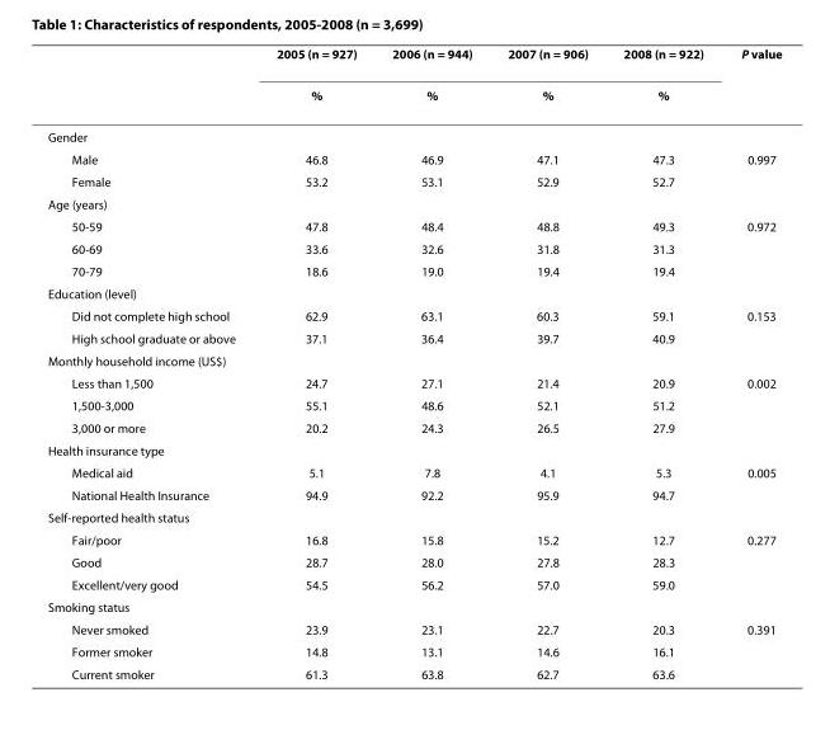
<table><thead><tr><td rowspan="2"></td><td rowspan="2">2005 (n = 927) %</td><td rowspan="2">2006 (n = 944) %</td><td rowspan="2">2007 (n = 906) %</td><td rowspan="2">2008 (n = 922) %</td><td rowspan="2">P value</td></tr><tr></tr></thead><tbody><tr><td colspan="6">Gender</td></tr><tr><td>Male</td><td>46.8</td><td>46.9</td><td>47.1</td><td>47.3</td><td>0.997</td></tr><tr><td>Female</td><td>53.2</td><td>53.1</td><td>52.9</td><td>52.7</td><td></td></tr><tr><td colspan="6">Age (years)</td></tr><tr><td>50-59</td><td>47.8</td><td>48.4</td><td>48.8</td><td>49.3</td><td>0.972</td></tr><tr><td>60-69</td><td>33.6</td><td>32.6</td><td>31.8</td><td>31.3</td><td></td></tr><tr><td>70-79</td><td>18.6</td><td>19.0</td><td>19.4</td><td>19.4</td><td></td></tr><tr><td colspan="6">Education (level)</td></tr><tr><td>Did not complete high school</td><td>62.9</td><td>63.1</td><td>60.3</td><td>59.1</td><td>0.153</td></tr><tr><td>High school graduate or above</td><td>37.1</td><td>36.4</td><td>39.7</td><td>40.9</td><td></td></tr><tr><td colspan="6">Monthly household income (US$)</td></tr><tr><td>Less than 1,500</td><td>24.7</td><td>27.1</td><td>21.4</td><td>20.9</td><td>0.002</td></tr><tr><td>1,500-3,000</td><td>55.1</td><td>48.6</td><td>52.1</td><td>51.2</td><td></td></tr><tr><td>3,000 or more</td><td>20.2</td><td>24.3</td><td>26.5</td><td>27.9</td><td></td></tr><tr><td colspan="6">Health insurance type</td></tr><tr><td>Medical aid</td><td>5.1</td><td>7.8</td><td>4.1</td><td>5.3</td><td>0.005</td></tr><tr><td>National Health Insurance</td><td>94.9</td><td>92.2</td><td>95.9</td><td>94.7</td><td></td></tr><tr><td colspan="6">Self-reported health status</td></tr><tr><td>Fair/poor</td><td>16.8</td><td>15.8</td><td>15.2</td><td>12.7</td><td>0.277</td></tr><tr><td>Good</td><td>28.7</td><td>28.0</td><td>27.8</td><td>28.3</td><td></td></tr><tr><td>Excellent/very good</td><td>54.5</td><td>56.2</td><td>57.0</td><td>59.0</td><td></td></tr><tr><td colspan="6">Smoking status</td></tr><tr><td>Never smoked</td><td>23.9</td><td>23.1</td><td>22.7</td><td>20.3</td><td>0.391</td></tr><tr><td>Former smoker</td><td>14.8</td><td>13.1</td><td>14.6</td><td>16.1</td><td></td></tr><tr><td>Current smoker</td><td>61.3</td><td>63.8</td><td>62.7</td><td>63.6</td><td></td></tr></tbody></table>